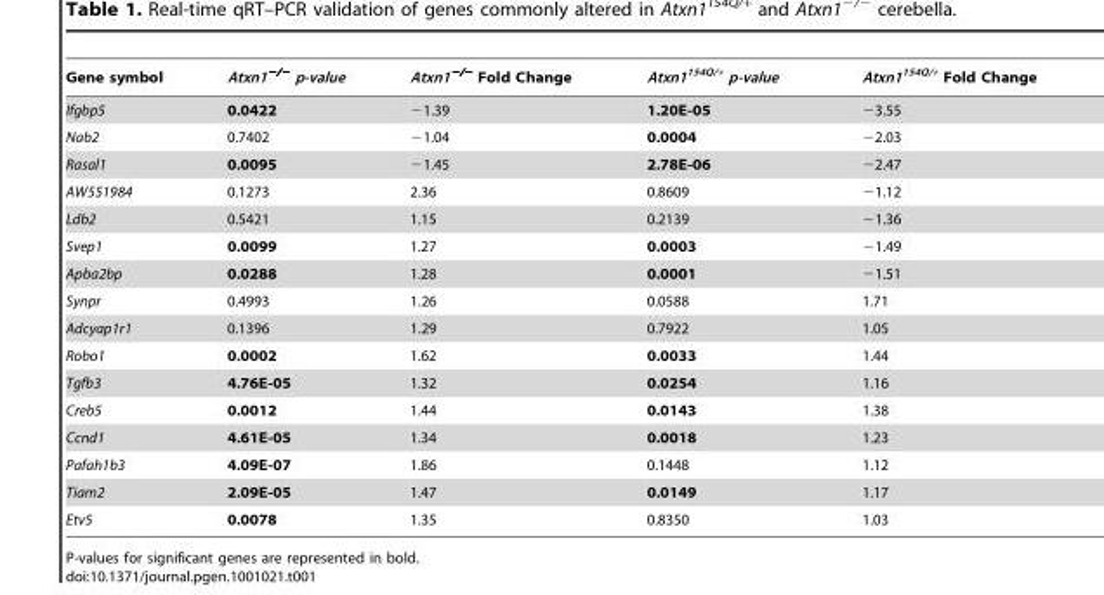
<table><thead><tr><td>Gene symbol</td><td>Atxn1<sup>−/−</sup> p-value</td><td>Atxn1<sup>−/−</sup> Fold Change</td><td>Atxn1<sup>154Q/+</sup> p-value</td><td>Atxn1<sup>154Q/+</sup> Fold Change</td></tr></thead><tbody><tr><td>Ifgbp5</td><td>0.0422</td><td>−1.39</td><td>1.20E-05</td><td>−3.55</td></tr><tr><td>Nab2</td><td>0.7402</td><td>−1.04</td><td>0.0004</td><td>−2.03</td></tr><tr><td>Rasal1</td><td>0.0095</td><td>−1.45</td><td>2.78E-06</td><td>−2.47</td></tr><tr><td>AW551984</td><td>0.1273</td><td>2.36</td><td>0.8609</td><td>−1.12</td></tr><tr><td>Ldb2</td><td>0.5421</td><td>1.15</td><td>0.2139</td><td>−1.36</td></tr><tr><td>Svep1</td><td>0.0099</td><td>1.27</td><td>0.0003</td><td>−1.49</td></tr><tr><td>Apba2bp</td><td>0.0288</td><td>1.28</td><td>0.0001</td><td>−1.51</td></tr><tr><td>Synpr</td><td>0.4993</td><td>1.26</td><td>0.0588</td><td>1.71</td></tr><tr><td>Adcyap1r1</td><td>0.1396</td><td>1.29</td><td>0.7922</td><td>1.05</td></tr><tr><td>Robo1</td><td>0.0002</td><td>1.62</td><td>0.0033</td><td>1.44</td></tr><tr><td>Tgfb3</td><td>4.76E-05</td><td>1.32</td><td>0.0254</td><td>1.16</td></tr><tr><td>Creb5</td><td>0.0012</td><td>1.44</td><td>0.0143</td><td>1.38</td></tr><tr><td>Ccnd1</td><td>4.61E-05</td><td>1.34</td><td>0.0018</td><td>1.23</td></tr><tr><td>Pafah1b3</td><td>4.09E-07</td><td>1.86</td><td>0.1448</td><td>1.12</td></tr><tr><td>Tiam2</td><td>2.09E-05</td><td>1.47</td><td>0.0149</td><td>1.17</td></tr><tr><td>Etv5</td><td>0.0078</td><td>1.35</td><td>0.8350</td><td>1.03</td></tr></tbody></table>